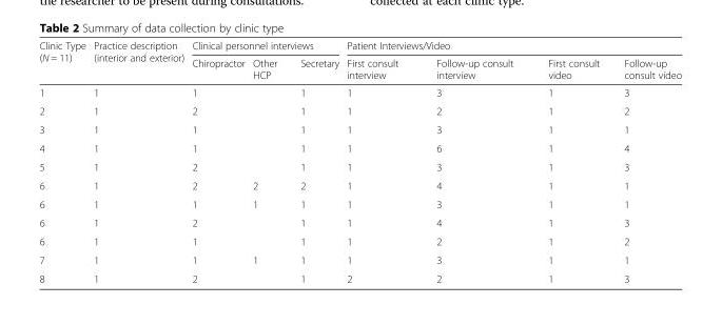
<table><thead><tr><td rowspan="2">Clinic Type (N = 11)</td><td rowspan="2">Practice description (interior and exterior)</td><td colspan="3">Clinical personnel interviews</td><td colspan="4">Patient Interviews/Video</td></tr><tr><td>Chiropractor</td><td>Other HCP</td><td>Secretary</td><td>First consult interview</td><td>Follow-up consult interview</td><td>First consult video</td><td>Follow-up consult video</td></tr></thead><tbody><tr><td>1</td><td>1</td><td>1</td><td></td><td>1</td><td>1</td><td>3</td><td>1</td><td>3</td></tr><tr><td>2</td><td>1</td><td>2</td><td></td><td>1</td><td>1</td><td>2</td><td>1</td><td>2</td></tr><tr><td>3</td><td>1</td><td>1</td><td></td><td>1</td><td>1</td><td>3</td><td>1</td><td>1</td></tr><tr><td>4</td><td>1</td><td>1</td><td></td><td>1</td><td>1</td><td>6</td><td>1</td><td>4</td></tr><tr><td>5</td><td>1</td><td>2</td><td></td><td>1</td><td>1</td><td>3</td><td>1</td><td>3</td></tr><tr><td>6</td><td>1</td><td>2</td><td>2</td><td>2</td><td>1</td><td>4</td><td>1</td><td>1</td></tr><tr><td>6</td><td>1</td><td>1</td><td>1</td><td>1</td><td>1</td><td>3</td><td>1</td><td>1</td></tr><tr><td>6</td><td>1</td><td>2</td><td></td><td>1</td><td>1</td><td>4</td><td>1</td><td>3</td></tr><tr><td>6</td><td>1</td><td>1</td><td></td><td>1</td><td>1</td><td>2</td><td>1</td><td>2</td></tr><tr><td>7</td><td>1</td><td>1</td><td>1</td><td>1</td><td>1</td><td>3</td><td>1</td><td>1</td></tr><tr><td>8</td><td>1</td><td>2</td><td></td><td>1</td><td>2</td><td>2</td><td>1</td><td>3</td></tr></tbody></table>